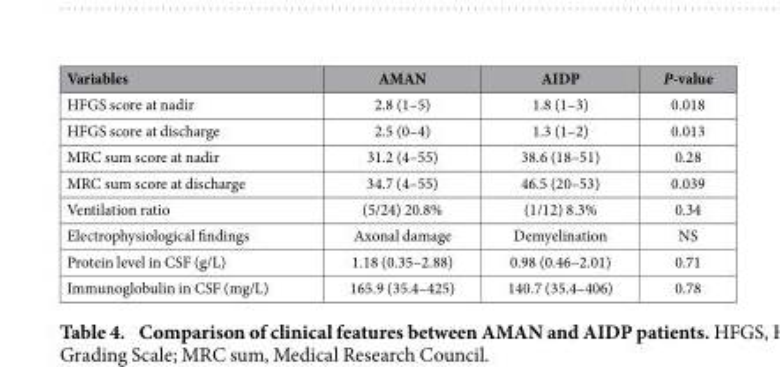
<table><thead><tr><td>Variables</td><td>AMAN</td><td>AIDP</td><td>P-value</td></tr></thead><tbody><tr><td>HFGS score at nadir</td><td>2.8 (1–5)</td><td>1.8 (1–3)</td><td>0.018</td></tr><tr><td>HFGS score at discharge</td><td>2.5 (0–4)</td><td>1.3 (1–2)</td><td>0.013</td></tr><tr><td>MRC sum score at nadir</td><td>31.2 (4–55)</td><td>38.6 (18–51)</td><td>0.28</td></tr><tr><td>MRC sum score at discharge</td><td>34.7 (4–55)</td><td>46.5 (20–53)</td><td>0.039</td></tr><tr><td>Ventilation ratio</td><td>(5/24) 20.8%</td><td>(1/12) 8.3%</td><td>0.34</td></tr><tr><td>Electrophysiological findings</td><td>Axonal damage</td><td>Demyelination</td><td>NS</td></tr><tr><td>Protein level in CSF (g/L)</td><td>1.18 (0.35–2.88)</td><td>0.98 (0.46–2.01)</td><td>0.71</td></tr><tr><td>Immunoglobulin in CSF (mg/L)</td><td>165.9 (35.4–425)</td><td>140.7 (35.4–406)</td><td>0.78</td></tr></tbody></table>